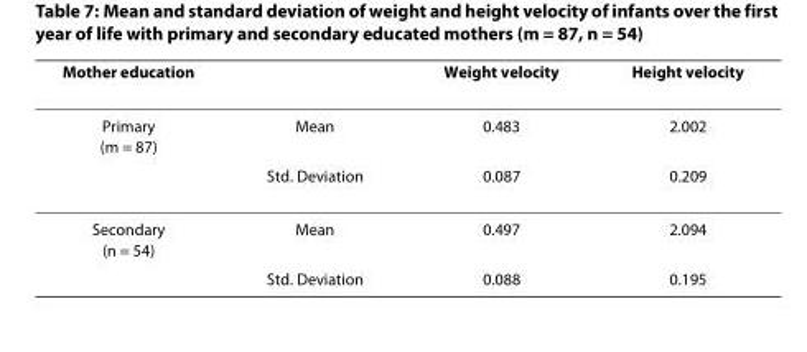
<table><thead><tr><td>Mother education</td><td></td><td>Weight velocity</td><td>Height velocity</td></tr></thead><tbody><tr><td rowspan="2">Primary (m = 87)</td><td>Mean</td><td>0.483</td><td>2.002</td></tr><tr><td>Std. Deviation</td><td>0.087</td><td>0.209</td></tr><tr><td rowspan="2">Secondary (n = 54)</td><td>Mean</td><td>0.497</td><td>2.094</td></tr><tr><td>Std. Deviation</td><td>0.088</td><td>0.195</td></tr></tbody></table>